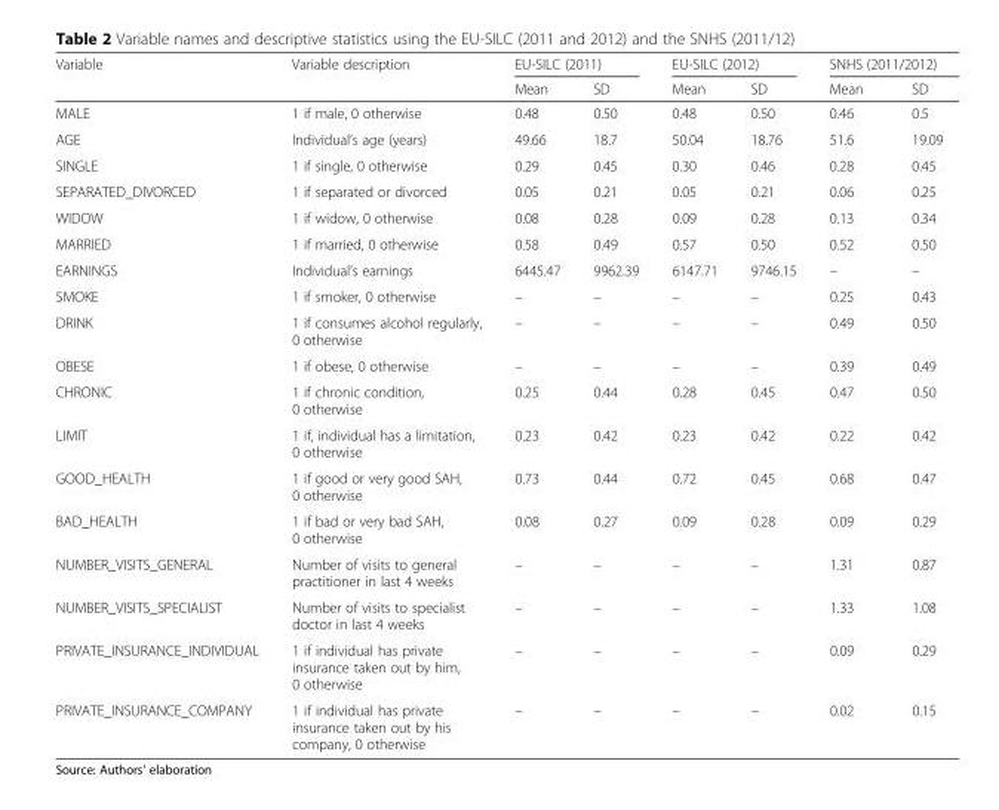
<table><thead><tr><td rowspan="2">Variable</td><td rowspan="2">Variable description</td><td colspan="2">EU-SILC (2011)</td><td colspan="2">EU-SILC (2012)</td><td colspan="2">SNHS (2011/2012)</td></tr><tr><td>Mean</td><td>SD</td><td>Mean</td><td>SD</td><td>Mean</td><td>SD</td></tr></thead><tbody><tr><td>MALE</td><td>1 if male, 0 otherwise</td><td>0.48</td><td>0.50</td><td>0.48</td><td>0.50</td><td>0.46</td><td>0.5</td></tr><tr><td>AGE</td><td>Individual’s age (years)</td><td>49.66</td><td>18.7</td><td>50.04</td><td>18.76</td><td>51.6</td><td>19.09</td></tr><tr><td>SINGLE</td><td>1 if single, 0 otherwise</td><td>0.29</td><td>0.45</td><td>0.30</td><td>0.46</td><td>0.28</td><td>0.45</td></tr><tr><td>SEPARATED_DIVORCED</td><td>1 if separated or divorced</td><td>0.05</td><td>0.21</td><td>0.05</td><td>0.21</td><td>0.06</td><td>0.25</td></tr><tr><td>WIDOW</td><td>1 if widow, 0 otherwise</td><td>0.08</td><td>0.28</td><td>0.09</td><td>0.28</td><td>0.13</td><td>0.34</td></tr><tr><td>MARRIED</td><td>1 if married, 0 otherwise</td><td>0.58</td><td>0.49</td><td>0.57</td><td>0.50</td><td>0.52</td><td>0.50</td></tr><tr><td>EARNINGS</td><td>Individual’s earnings</td><td>6445.47</td><td>9962.39</td><td>6147.71</td><td>9746.15</td><td>–</td><td>–</td></tr><tr><td>SMOKE</td><td>1 if smoker, 0 otherwise</td><td>–</td><td>–</td><td>–</td><td>–</td><td>0.25</td><td>0.43</td></tr><tr><td>DRINK</td><td>1 if consumes alcohol regularly, 0 otherwise</td><td>–</td><td>–</td><td>–</td><td>–</td><td>0.49</td><td>0.50</td></tr><tr><td>OBESE</td><td>1 if obese, 0 otherwise</td><td>–</td><td>–</td><td>–</td><td>–</td><td>0.39</td><td>0.49</td></tr><tr><td>CHRONIC</td><td>1 if chronic condition, 0 otherwise</td><td>0.25</td><td>0.44</td><td>0.28</td><td>0.45</td><td>0.47</td><td>0.50</td></tr><tr><td>LIMIT</td><td>1 if, individual has a limitation, 0 otherwise</td><td>0.23</td><td>0.42</td><td>0.23</td><td>0.42</td><td>0.22</td><td>0.42</td></tr><tr><td>GOOD_HEALTH</td><td>1 if good or very good SAH, 0 otherwise</td><td>0.73</td><td>0.44</td><td>0.72</td><td>0.45</td><td>0.68</td><td>0.47</td></tr><tr><td>BAD_HEALTH</td><td>1 if bad or very bad SAH, 0 otherwise</td><td>0.08</td><td>0.27</td><td>0.09</td><td>0.28</td><td>0.09</td><td>0.29</td></tr><tr><td>NUMBER_VISITS_GENERAL</td><td>Number of visits to general practitioner in last 4 weeks</td><td>–</td><td>–</td><td>–</td><td>–</td><td>1.31</td><td>0.87</td></tr><tr><td>NUMBER_VISITS_SPECIALIST</td><td>Number of visits to specialist doctor in last 4 weeks</td><td>–</td><td>–</td><td>–</td><td>–</td><td>1.33</td><td>1.08</td></tr><tr><td>PRIVATE_INSURANCE_INDIVIDUAL</td><td>1 if individual has private insurance taken out by him, 0 otherwise</td><td>–</td><td>–</td><td>–</td><td>–</td><td>0.09</td><td>0.29</td></tr><tr><td>PRIVATE_INSURANCE_COMPANY</td><td>1 if individual has private insurance taken out by his company, 0 otherwise</td><td>–</td><td>–</td><td>–</td><td>–</td><td>0.02</td><td>0.15</td></tr></tbody></table>